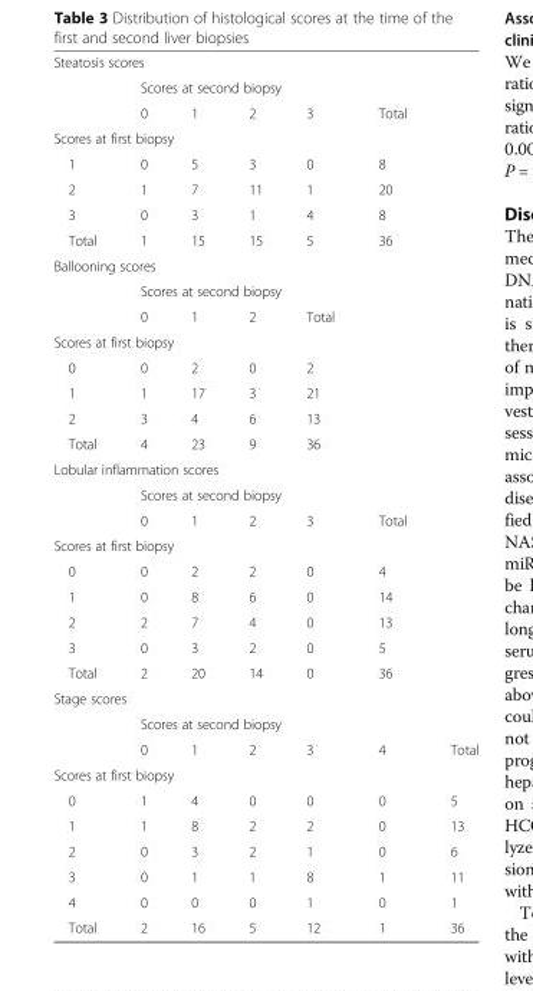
<table><tbody><tr><td colspan="7">Steatosis scores</td></tr><tr><td rowspan="2"></td><td colspan="6">Scores at second biopsy</td></tr><tr><td>0</td><td>1</td><td>2</td><td>3</td><td>Total</td><td></td></tr><tr><td colspan="7">Scores at first biopsy</td></tr><tr><td>1</td><td>0</td><td>5</td><td>3</td><td>0</td><td>8</td><td></td></tr><tr><td>2</td><td>1</td><td>7</td><td>11</td><td>1</td><td>20</td><td></td></tr><tr><td>3</td><td>0</td><td>3</td><td>1</td><td>4</td><td>8</td><td></td></tr><tr><td>Total</td><td>1</td><td>15</td><td>15</td><td>5</td><td>36</td><td></td></tr><tr><td colspan="7">Ballooning scores</td></tr><tr><td rowspan="2"></td><td colspan="6">Scores at second biopsy</td></tr><tr><td>0</td><td>1</td><td>2</td><td>Total</td><td></td><td></td></tr><tr><td colspan="7">Scores at first biopsy</td></tr><tr><td>0</td><td>0</td><td>2</td><td>0</td><td>2</td><td></td><td></td></tr><tr><td>1</td><td>1</td><td>17</td><td>3</td><td>21</td><td></td><td></td></tr><tr><td>2</td><td>3</td><td>4</td><td>6</td><td>13</td><td></td><td></td></tr><tr><td>Total</td><td>4</td><td>23</td><td>9</td><td>36</td><td></td><td></td></tr><tr><td colspan="7">Lobular inflammation scores</td></tr><tr><td rowspan="2"></td><td colspan="6">Scores at second biopsy</td></tr><tr><td>0</td><td>1</td><td>2</td><td>3</td><td>Total</td><td></td></tr><tr><td colspan="7">Scores at first biopsy</td></tr><tr><td>0</td><td>0</td><td>2</td><td>2</td><td>0</td><td>4</td><td></td></tr><tr><td>1</td><td>0</td><td>8</td><td>6</td><td>0</td><td>14</td><td></td></tr><tr><td>2</td><td>2</td><td>7</td><td>4</td><td>0</td><td>13</td><td></td></tr><tr><td>3</td><td>0</td><td>3</td><td>2</td><td>0</td><td>5</td><td></td></tr><tr><td>Total</td><td>2</td><td>20</td><td>14</td><td>0</td><td>36</td><td></td></tr><tr><td colspan="7">Stage scores</td></tr><tr><td rowspan="2"></td><td colspan="6">Scores at second biopsy</td></tr><tr><td>0</td><td>1</td><td>2</td><td>3</td><td>4</td><td>Total</td></tr><tr><td colspan="7">Scores at first biopsy</td></tr><tr><td>0</td><td>1</td><td>4</td><td>0</td><td>0</td><td>0</td><td>5</td></tr><tr><td>1</td><td>1</td><td>8</td><td>2</td><td>2</td><td>0</td><td>13</td></tr><tr><td>2</td><td>0</td><td>3</td><td>2</td><td>1</td><td>0</td><td>6</td></tr><tr><td>3</td><td>0</td><td>1</td><td>1</td><td>8</td><td>1</td><td>11</td></tr><tr><td>4</td><td>0</td><td>0</td><td>0</td><td>1</td><td>0</td><td>1</td></tr><tr><td>Total</td><td>2</td><td>16</td><td>5</td><td>12</td><td>1</td><td>36</td></tr></tbody></table>